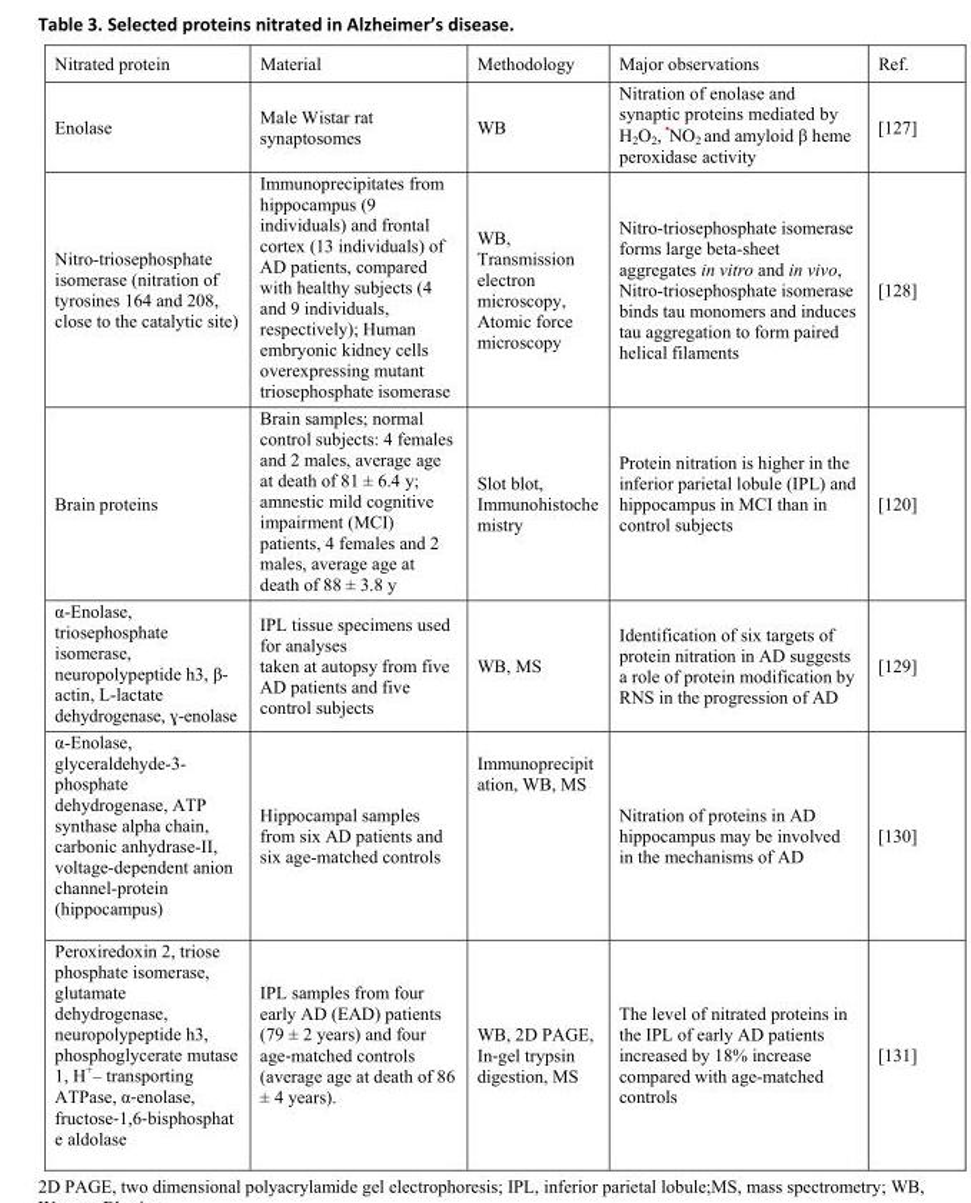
<table><tbody><tr><td>Nitrated protein</td><td>Material</td><td>Methodology</td><td>Major observations</td><td>Ref.</td></tr><tr><td>Enolase</td><td>Male Wistar rat synaptosomes</td><td>WB</td><td>Nitration of enolase and synaptic proteins mediated by H2O2, •NO2 and amyloid β heme peroxidase activity</td><td>[127]</td></tr><tr><td>Nitro-triosephosphate isomerase (nitration of tyrosines 164 and 208, close to the catalytic site)</td><td>Immunoprecipitates from hippocampus (9 individuals) and frontal cortex (13 individuals) of AD patients, compared with healthy subjects (4 and 9 individuals, respectively); Human embryonic kidney cells overexpressing mutant triosephosphate isomerase</td><td>WB, Transmission electron microscopy, Atomic force microscopy</td><td>Nitro-triosephosphate isomerase forms large beta-sheet aggregates in vitro and in vivo, Nitro-triosephosphate isomerase binds tau monomers and induces tau aggregation to form paired helical filaments</td><td>[128]</td></tr><tr><td>Brain proteins</td><td>Brain samples; normal control subjects: 4 females and 2 males, average age at death of 81 ± 6.4 y; amnestic mild cognitive impairment (MCI) patients, 4 females and 2 males, average age at death of 88 ± 3.8 y</td><td>Slot blot, Immunohistoche mistry</td><td>Protein nitration is higher in the inferior parietal lobule (IPL) and hippocampus in MCI than in control subjects</td><td>[120]</td></tr><tr><td>α-Enolase, triosephosphate isomerase, neuropolypeptide h3, β- actin, L-lactate dehydrogenase, ɣ-enolase</td><td>IPL tissue specimens used for analyses taken at autopsy from five AD patients and five control subjects</td><td>WB, MS</td><td>Identification of six targets of protein nitration in AD suggests a role of protein modification by RNS in the progression of AD</td><td>[129]</td></tr><tr><td>α-Enolase, glyceraldehyde-3- phosphate dehydrogenase, ATP synthase alpha chain, carbonic anhydrase-II, voltage-dependent anion channel-protein (hippocampus)</td><td>Hippocampal samples from six AD patients and six age-matched controls</td><td>Immunoprecipit ation, WB, MS</td><td>Nitration of proteins in AD hippocampus may be involved in the mechanisms of AD</td><td>[130]</td></tr><tr><td>Peroxiredoxin 2, triose phosphate isomerase, glutamate dehydrogenase, neuropolypeptide h3, phosphoglycerate mutase 1, H<sup>+</sup>– transporting ATPase, α‐enolase, fructose‐1,6‐bisphosphat e aldolase</td><td>IPL samples from four early AD (EAD) patients (79 ± 2 years) and four age‐matched controls (average age at death of 86 ± 4 years).</td><td>WB, 2D PAGE, In‐gel trypsin digestion, MS</td><td>The level of nitrated proteins in the IPL of early AD patients increased by 18% increase compared with age-matched controls</td><td>[131]</td></tr></tbody></table>